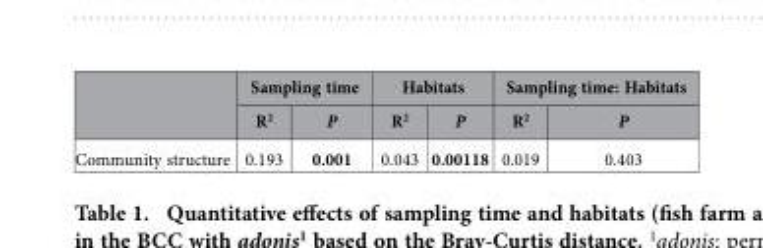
<table><thead><tr><td rowspan="2"></td><td colspan="2">Sampling time</td><td colspan="2">Habitats</td><td colspan="2">Sampling time: Habitats</td></tr><tr><td>R<sup>2</sup></td><td>P</td><td>R<sup>2</sup></td><td>P</td><td>R<sup>2</sup></td><td>P</td></tr></thead><tbody><tr><td>Community structure</td><td>0.193</td><td>0.001</td><td>0.043</td><td>0.00118</td><td>0.019</td><td>0.403</td></tr></tbody></table>